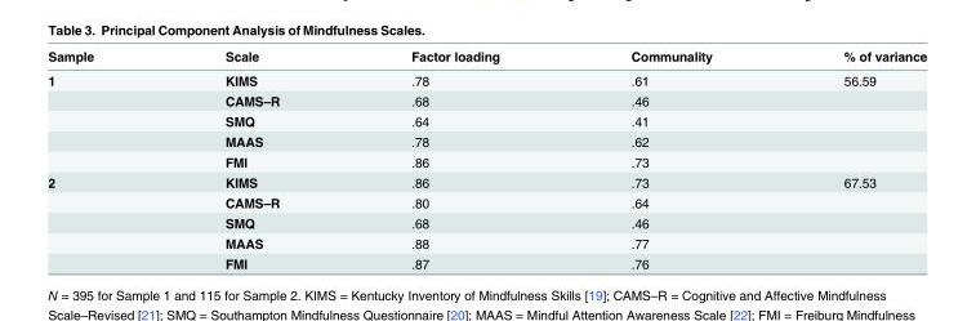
<table><thead><tr><td>Sample</td><td>Scale</td><td>Factor loading</td><td>Communality</td><td>% of variance</td></tr></thead><tbody><tr><td rowspan="5">1</td><td>KIMS</td><td>.78</td><td>.61</td><td>56.59</td></tr><tr><td>CAMS–R</td><td>.68</td><td>.46</td><td></td></tr><tr><td>SMQ</td><td>.64</td><td>.41</td><td></td></tr><tr><td>MAAS</td><td>.78</td><td>.62</td><td></td></tr><tr><td>FMI</td><td>.86</td><td>.73</td><td></td></tr><tr><td rowspan="5">2</td><td>KIMS</td><td>.86</td><td>.73</td><td>67.53</td></tr><tr><td>CAMS–R</td><td>.80</td><td>.64</td><td></td></tr><tr><td>SMQ</td><td>.68</td><td>.46</td><td></td></tr><tr><td>MAAS</td><td>.88</td><td>.77</td><td></td></tr><tr><td>FMI</td><td>.87</td><td>.76</td><td></td></tr></tbody></table>